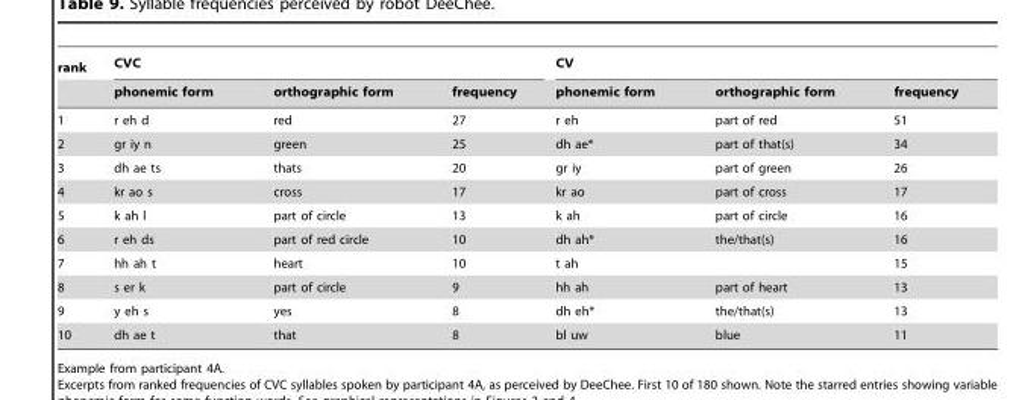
<table><thead><tr><td rowspan="2">rank</td><td colspan="3">CVC</td><td colspan="3">CV</td></tr><tr><td>phonemic form</td><td>orthographic form</td><td>frequency</td><td>phonemic form</td><td>orthographic form</td><td>frequency</td></tr></thead><tbody><tr><td>1</td><td>r eh d</td><td>red</td><td>27</td><td>r eh</td><td>part of red</td><td>51</td></tr><tr><td>2</td><td>gr iy n</td><td>green</td><td>25</td><td>dh ae*</td><td>part of that(s)</td><td>34</td></tr><tr><td>3</td><td>dh ae ts</td><td>thats</td><td>20</td><td>gr iy</td><td>part of green</td><td>26</td></tr><tr><td>4</td><td>kr ao s</td><td>cross</td><td>17</td><td>kr ao</td><td>part of cross</td><td>17</td></tr><tr><td>5</td><td>k ah l</td><td>part of circle</td><td>13</td><td>k ah</td><td>part of circle</td><td>16</td></tr><tr><td>6</td><td>r eh ds</td><td>part of red circle</td><td>10</td><td>dh ah*</td><td>the/that(s)</td><td>16</td></tr><tr><td>7</td><td>hh ah t</td><td>heart</td><td>10</td><td>t ah</td><td></td><td>15</td></tr><tr><td>8</td><td>s er k</td><td>part of circle</td><td>9</td><td>hh ah</td><td>part of heart</td><td>13</td></tr><tr><td>9</td><td>y eh s</td><td>yes</td><td>8</td><td>dh eh*</td><td>the/that(s)</td><td>13</td></tr><tr><td>10</td><td>dh ae t</td><td>that</td><td>8</td><td>bl uw</td><td>blue</td><td>11</td></tr></tbody></table>